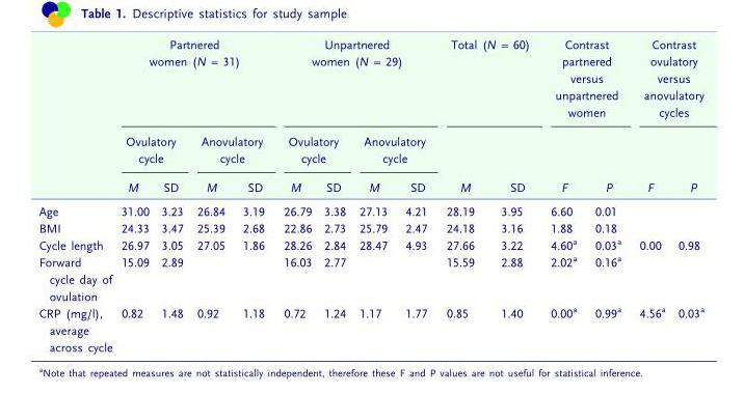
<table><thead><tr><td rowspan="3"></td><td colspan="4">Partnered women (N = 31)</td><td colspan="4">Unpartnered women (N = 29)</td><td colspan="2">Total (N = 60)</td><td colspan="2">Contrast partnered versus unpartnered women</td><td colspan="2">Contrast ovulatory versus anovulatory cycles</td></tr><tr><td colspan="2">Ovulatory cycle</td><td colspan="2">Anovulatory cycle</td><td colspan="2">Ovulatory cycle</td><td colspan="2">Anovulatory cycle</td><td rowspan="2">M</td><td rowspan="2">SD</td><td rowspan="2">F</td><td rowspan="2">P</td><td rowspan="2">F</td><td rowspan="2">P</td></tr><tr><td>M</td><td>SD</td><td>M</td><td>SD</td><td>M</td><td>SD</td><td>M</td><td>SD</td></tr></thead><tbody><tr><td>Age</td><td>31.00</td><td>3.23</td><td>26.84</td><td>3.19</td><td>26.79</td><td>3.38</td><td>27.13</td><td>4.21</td><td>28.19</td><td>3.95</td><td>6.60</td><td>0.01</td><td></td><td></td></tr><tr><td>BMI</td><td>24.33</td><td>3.47</td><td>25.39</td><td>2.68</td><td>22.86</td><td>2.73</td><td>25.79</td><td>2.47</td><td>24.18</td><td>3.16</td><td>1.88</td><td>0.18</td><td></td><td></td></tr><tr><td>Cycle length</td><td>26.97</td><td>3.05</td><td>27.05</td><td>1.86</td><td>28.26</td><td>2.84</td><td>28.47</td><td>4.93</td><td>27.66</td><td>3.22</td><td>4.60<sup>a</sup></td><td>0.03<sup>a</sup></td><td>0.00</td><td>0.98</td></tr><tr><td>Forward cycle day of ovulation</td><td>15.09</td><td>2.89</td><td></td><td></td><td>16.03</td><td>2.77</td><td></td><td></td><td>15.59</td><td>2.88</td><td>2.02<sup>a</sup></td><td>0.16<sup>a</sup></td><td></td><td></td></tr><tr><td>CRP (mg/l), average across cycle</td><td>0.82</td><td>1.48</td><td>0.92</td><td>1.18</td><td>0.72</td><td>1.24</td><td>1.17</td><td>1.77</td><td>0.85</td><td>1.40</td><td>0.00<sup>a</sup></td><td>0.99<sup>a</sup></td><td>4.56<sup>a</sup></td><td>0.03<sup>a</sup></td></tr></tbody></table>